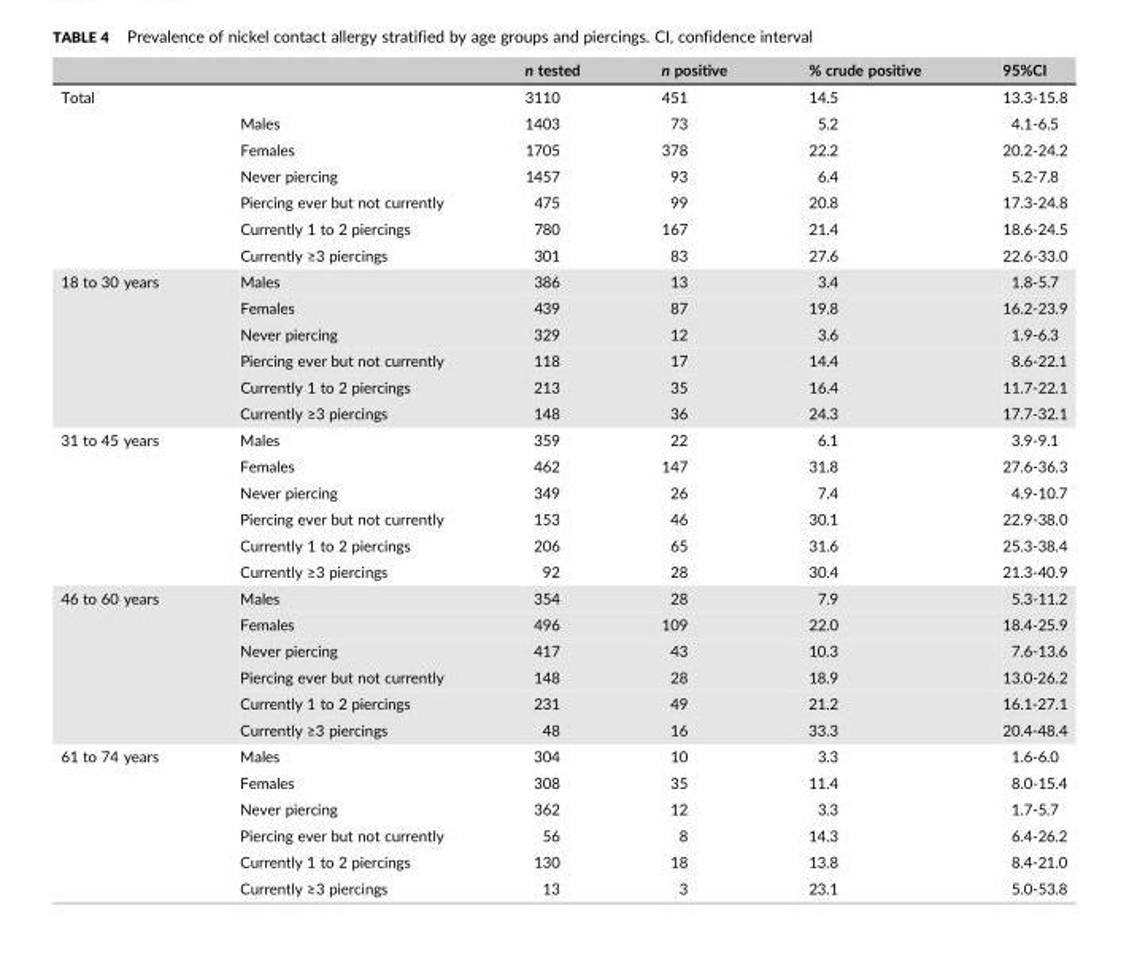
<table><thead><tr><td></td><td></td><td>n tested</td><td>n positive</td><td>% crude positive</td><td>95%CI</td></tr></thead><tbody><tr><td rowspan="7">Total</td><td></td><td>3110</td><td>451</td><td>14.5</td><td>13.3-15.8</td></tr><tr><td>Males</td><td>1403</td><td>73</td><td>5.2</td><td>4.1-6.5</td></tr><tr><td>Females</td><td>1705</td><td>378</td><td>22.2</td><td>20.2-24.2</td></tr><tr><td>Never piercing</td><td>1457</td><td>93</td><td>6.4</td><td>5.2-7.8</td></tr><tr><td>Piercing ever but not currently</td><td>475</td><td>99</td><td>20.8</td><td>17.3-24.8</td></tr><tr><td>Currently 1 to 2 piercings</td><td>780</td><td>167</td><td>21.4</td><td>18.6-24.5</td></tr><tr><td>Currently ≥3 piercings</td><td>301</td><td>83</td><td>27.6</td><td>22.6-33.0</td></tr><tr><td rowspan="6">18 to 30 years</td><td>Males</td><td>386</td><td>13</td><td>3.4</td><td>1.8-5.7</td></tr><tr><td>Females</td><td>439</td><td>87</td><td>19.8</td><td>16.2-23.9</td></tr><tr><td>Never piercing</td><td>329</td><td>12</td><td>3.6</td><td>1.9-6.3</td></tr><tr><td>Piercing ever but not currently</td><td>118</td><td>17</td><td>14.4</td><td>8.6-22.1</td></tr><tr><td>Currently 1 to 2 piercings</td><td>213</td><td>35</td><td>16.4</td><td>11.7-22.1</td></tr><tr><td>Currently ≥3 piercings</td><td>148</td><td>36</td><td>24.3</td><td>17.7-32.1</td></tr><tr><td rowspan="6">31 to 45 years</td><td>Males</td><td>359</td><td>22</td><td>6.1</td><td>3.9-9.1</td></tr><tr><td>Females</td><td>462</td><td>147</td><td>31.8</td><td>27.6-36.3</td></tr><tr><td>Never piercing</td><td>349</td><td>26</td><td>7.4</td><td>4.9-10.7</td></tr><tr><td>Piercing ever but not currently</td><td>153</td><td>46</td><td>30.1</td><td>22.9-38.0</td></tr><tr><td>Currently 1 to 2 piercings</td><td>206</td><td>65</td><td>31.6</td><td>25.3-38.4</td></tr><tr><td>Currently ≥3 piercings</td><td>92</td><td>28</td><td>30.4</td><td>21.3-40.9</td></tr><tr><td rowspan="6">46 to 60 years</td><td>Males</td><td>354</td><td>28</td><td>7.9</td><td>5.3-11.2</td></tr><tr><td>Females</td><td>496</td><td>109</td><td>22.0</td><td>18.4-25.9</td></tr><tr><td>Never piercing</td><td>417</td><td>43</td><td>10.3</td><td>7.6-13.6</td></tr><tr><td>Piercing ever but not currently</td><td>148</td><td>28</td><td>18.9</td><td>13.0-26.2</td></tr><tr><td>Currently 1 to 2 piercings</td><td>231</td><td>49</td><td>21.2</td><td>16.1-27.1</td></tr><tr><td>Currently ≥3 piercings</td><td>48</td><td>16</td><td>33.3</td><td>20.4-48.4</td></tr><tr><td rowspan="6">61 to 74 years</td><td>Males</td><td>304</td><td>10</td><td>3.3</td><td>1.6-6.0</td></tr><tr><td>Females</td><td>308</td><td>35</td><td>11.4</td><td>8.0-15.4</td></tr><tr><td>Never piercing</td><td>362</td><td>12</td><td>3.3</td><td>1.7-5.7</td></tr><tr><td>Piercing ever but not currently</td><td>56</td><td>8</td><td>14.3</td><td>6.4-26.2</td></tr><tr><td>Currently 1 to 2 piercings</td><td>130</td><td>18</td><td>13.8</td><td>8.4-21.0</td></tr><tr><td>Currently ≥3 piercings</td><td>13</td><td>3</td><td>23.1</td><td>5.0-53.8</td></tr></tbody></table>